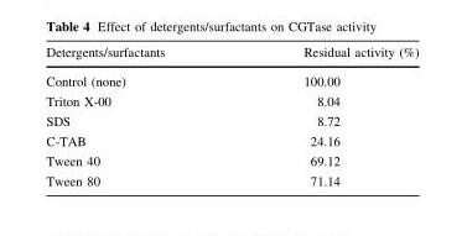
<table><thead><tr><td>Detergents/surfactants</td><td>Residual activity (%)</td></tr></thead><tbody><tr><td>Control (none)</td><td>100.00</td></tr><tr><td>Triton X-00</td><td>8.04</td></tr><tr><td>SDS</td><td>8.72</td></tr><tr><td>C-TAB</td><td>24.16</td></tr><tr><td>Tween 40</td><td>69.12</td></tr><tr><td>Tween 80</td><td>71.14</td></tr></tbody></table>